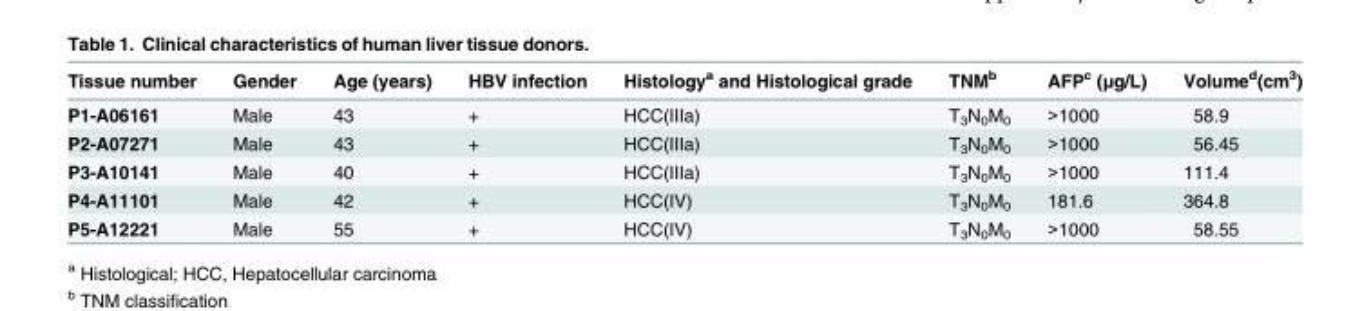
<table><thead><tr><td>Tissue number</td><td>Gender</td><td>Age (years)</td><td>HBV infection</td><td>Histology<sup>a</sup> and Histological grade</td><td>TNM<sup>b</sup></td><td>AFP<sup>c</sup> (μg/L)</td><td>Volume<sup>d</sup>(cm<sup>3</sup>)</td></tr></thead><tbody><tr><td>P1-A06161</td><td>Male</td><td>43</td><td>+</td><td>HCC(IIIa)</td><td>T<sub>3</sub>N<sub>0</sub>M<sub>0</sub></td><td>&gt;1000</td><td>58.9</td></tr><tr><td>P2-A07271</td><td>Male</td><td>43</td><td>+</td><td>HCC(IIIa)</td><td>T<sub>3</sub>N<sub>0</sub>M<sub>0</sub></td><td>&gt;1000</td><td>56.45</td></tr><tr><td>P3-A10141</td><td>Male</td><td>40</td><td>+</td><td>HCC(IIIa)</td><td>T<sub>3</sub>N<sub>0</sub>M<sub>0</sub></td><td>&gt;1000</td><td>111.4</td></tr><tr><td>P4-A11101</td><td>Male</td><td>42</td><td>+</td><td>HCC(IV)</td><td>T<sub>3</sub>N<sub>0</sub>M<sub>0</sub></td><td>181.6</td><td>364.8</td></tr><tr><td>P5-A12221</td><td>Male</td><td>55</td><td>+</td><td>HCC(IV)</td><td>T<sub>3</sub>N<sub>0</sub>M<sub>0</sub></td><td>&gt;1000</td><td>58.55</td></tr></tbody></table>